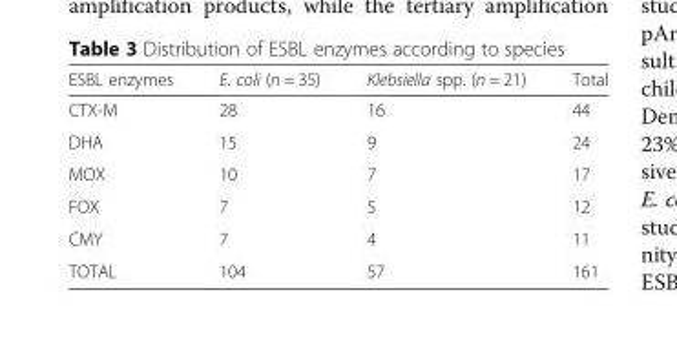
<table><thead><tr><td>ESBL enzymes</td><td>E. coli (n = 35)</td><td>Klebsiella spp. (n = 21)</td><td>Total</td></tr></thead><tbody><tr><td>CTX-M</td><td>28</td><td>16</td><td>44</td></tr><tr><td>DHA</td><td>15</td><td>9</td><td>24</td></tr><tr><td>MOX</td><td>10</td><td>7</td><td>17</td></tr><tr><td>FOX</td><td>7</td><td>5</td><td>12</td></tr><tr><td>CMY</td><td>7</td><td>4</td><td>11</td></tr><tr><td>TOTAL</td><td>104</td><td>57</td><td>161</td></tr></tbody></table>